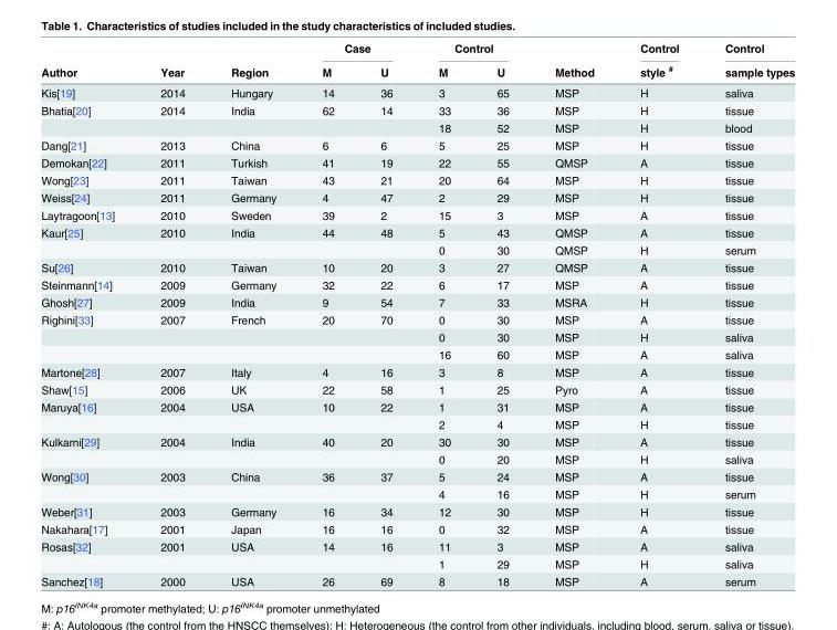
<table><thead><tr><td rowspan="2">Author</td><td rowspan="2">Year</td><td rowspan="2">Region</td><td colspan="2">Case</td><td colspan="2">Control</td><td rowspan="2">Method</td><td rowspan="2">Control style <sup>#</sup></td><td rowspan="2">Control sample types</td></tr><tr><td>M</td><td>U</td><td>M</td><td>U</td></tr></thead><tbody><tr><td>Kis[19]</td><td>2014</td><td>Hungary</td><td>14</td><td>36</td><td>3</td><td>65</td><td>MSP</td><td>H</td><td>saliva</td></tr><tr><td rowspan="2">Bhatia[20]</td><td>2014</td><td>India</td><td>62</td><td>14</td><td>33</td><td>36</td><td>MSP</td><td>H</td><td>tissue</td></tr><tr><td></td><td></td><td></td><td></td><td>18</td><td>52</td><td>MSP</td><td>H</td><td>blood</td></tr><tr><td>Dang[21]</td><td>2013</td><td>China</td><td>6</td><td>6</td><td>5</td><td>25</td><td>MSP</td><td>H</td><td>tissue</td></tr><tr><td>Demokan[22]</td><td>2011</td><td>Turkish</td><td>41</td><td>19</td><td>22</td><td>55</td><td>QMSP</td><td>A</td><td>tissue</td></tr><tr><td>Wong[23]</td><td>2011</td><td>Taiwan</td><td>43</td><td>21</td><td>20</td><td>64</td><td>MSP</td><td>H</td><td>tissue</td></tr><tr><td>Weiss[24]</td><td>2011</td><td>Germany</td><td>4</td><td>47</td><td>2</td><td>29</td><td>MSP</td><td>H</td><td>tissue</td></tr><tr><td>Laytragoon[13]</td><td>2010</td><td>Sweden</td><td>39</td><td>2</td><td>15</td><td>3</td><td>MSP</td><td>A</td><td>tissue</td></tr><tr><td rowspan="2">Kaur[25]</td><td>2010</td><td>India</td><td>44</td><td>48</td><td>5</td><td>43</td><td>QMSP</td><td>A</td><td>tissue</td></tr><tr><td></td><td></td><td></td><td></td><td>0</td><td>30</td><td>QMSP</td><td>H</td><td>serum</td></tr><tr><td>Su[26]</td><td>2010</td><td>Taiwan</td><td>10</td><td>20</td><td>3</td><td>27</td><td>QMSP</td><td>A</td><td>tissue</td></tr><tr><td>Steinmann[14]</td><td>2009</td><td>Germany</td><td>32</td><td>22</td><td>6</td><td>17</td><td>MSP</td><td>A</td><td>tissue</td></tr><tr><td>Ghosh[27]</td><td>2009</td><td>India</td><td>9</td><td>54</td><td>7</td><td>33</td><td>MSRA</td><td>H</td><td>tissue</td></tr><tr><td rowspan="3">Righini[33]</td><td>2007</td><td>French</td><td>20</td><td>70</td><td>0</td><td>30</td><td>MSP</td><td>A</td><td>tissue</td></tr><tr><td></td><td></td><td></td><td></td><td>0</td><td>30</td><td>MSP</td><td>H</td><td>saliva</td></tr><tr><td></td><td></td><td></td><td></td><td>16</td><td>60</td><td>MSP</td><td>A</td><td>saliva</td></tr><tr><td>Martone[28]</td><td>2007</td><td>Italy</td><td>4</td><td>16</td><td>3</td><td>8</td><td>MSP</td><td>A</td><td>tissue</td></tr><tr><td>Shaw[15]</td><td>2006</td><td>UK</td><td>22</td><td>58</td><td>1</td><td>25</td><td>Pyro</td><td>A</td><td>tissue</td></tr><tr><td rowspan="2">Maruya[16]</td><td>2004</td><td>USA</td><td>10</td><td>22</td><td>1</td><td>31</td><td>MSP</td><td>A</td><td>tissue</td></tr><tr><td></td><td></td><td></td><td></td><td>2</td><td>4</td><td>MSP</td><td>H</td><td>tissue</td></tr><tr><td rowspan="2">Kulkarni[29]</td><td>2004</td><td>India</td><td>40</td><td>20</td><td>30</td><td>30</td><td>MSP</td><td>A</td><td>tissue</td></tr><tr><td></td><td></td><td></td><td></td><td>0</td><td>20</td><td>MSP</td><td>H</td><td>saliva</td></tr><tr><td rowspan="2">Wong[30]</td><td>2003</td><td>China</td><td>36</td><td>37</td><td>5</td><td>24</td><td>MSP</td><td>A</td><td>tissue</td></tr><tr><td></td><td></td><td></td><td></td><td>4</td><td>16</td><td>MSP</td><td>H</td><td>serum</td></tr><tr><td>Weber[31]</td><td>2003</td><td>Germany</td><td>16</td><td>34</td><td>12</td><td>30</td><td>MSP</td><td>H</td><td>tissue</td></tr><tr><td>Nakahara[17]</td><td>2001</td><td>Japan</td><td>16</td><td>16</td><td>0</td><td>32</td><td>MSP</td><td>A</td><td>tissue</td></tr><tr><td rowspan="2">Rosas[32]</td><td>2001</td><td>USA</td><td>14</td><td>16</td><td>11</td><td>3</td><td>MSP</td><td>A</td><td>saliva</td></tr><tr><td></td><td></td><td></td><td></td><td>1</td><td>29</td><td>MSP</td><td>H</td><td>saliva</td></tr><tr><td>Sanchez[18]</td><td>2000</td><td>USA</td><td>26</td><td>69</td><td>8</td><td>18</td><td>MSP</td><td>A</td><td>serum</td></tr></tbody></table>